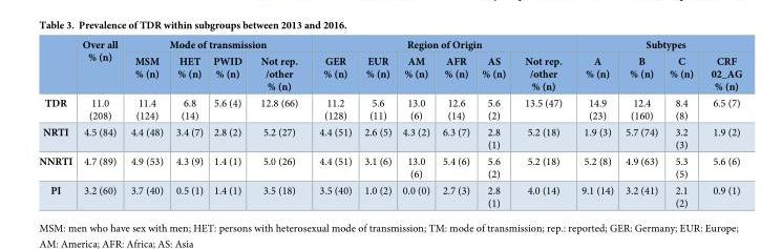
<table><thead><tr><td rowspan="2"></td><td rowspan="2">Over all % (n)</td><td colspan="4">Mode of transmission</td><td colspan="6">Region of Origin</td><td colspan="4">Subtypes</td></tr><tr><td>MSM % (n)</td><td>HET % (n)</td><td>PWID % (n)</td><td>Not rep. /other % (n)</td><td>GER % (n)</td><td>EUR % (n)</td><td>AM % (n)</td><td>AFR % (n)</td><td>AS % (n)</td><td>Not rep. /other % (n)</td><td>A % (n)</td><td>B % (n)</td><td>C % (n)</td><td>CRF 02_AG % (n)</td></tr></thead><tbody><tr><td>TDR</td><td>11.0 (208)</td><td>11.4 (124)</td><td>6.8 (14)</td><td>5.6 (4)</td><td>12.8 (66)</td><td>11.2 (128)</td><td>5.6 (11)</td><td>13.0 (6)</td><td>12.6 (14)</td><td>5.6 (2)</td><td>13.5 (47)</td><td>14.9 (23)</td><td>12.4 (160)</td><td>8.4 (8)</td><td>6.5 (7)</td></tr><tr><td>NRTI</td><td>4.5 (84)</td><td>4.4 (48)</td><td>3.4 (7)</td><td>2.8 (2)</td><td>5.2 (27)</td><td>4.4 (51)</td><td>2.6 (5)</td><td>4.3 (2)</td><td>6.3 (7)</td><td>2.8 (1)</td><td>5.2 (18)</td><td>1.9 (3)</td><td>5.7 (74)</td><td>3.2 (3)</td><td>1.9 (2)</td></tr><tr><td>NNRTI</td><td>4.7 (89)</td><td>4.9 (53)</td><td>4.3 (9)</td><td>1.4 (1)</td><td>5.0 (26)</td><td>4.4 (51)</td><td>3.1 (6)</td><td>13.0 (6)</td><td>5.4 (6)</td><td>5.6 (2)</td><td>5.2 (18)</td><td>5.2 (8)</td><td>4.9 (63)</td><td>5.3 (5)</td><td>5.6 (6)</td></tr><tr><td>PI</td><td>3.2 (60)</td><td>3.7 (40)</td><td>0.5 (1)</td><td>1.4 (1)</td><td>3.5 (18)</td><td>3.5 (40)</td><td>1.0 (2)</td><td>0.0 (0)</td><td>2.7 (3)</td><td>2.8 (1)</td><td>4.0 (14)</td><td>9.1 (14)</td><td>3.2 (41)</td><td>2.1 (2)</td><td>0.9 (1)</td></tr></tbody></table>